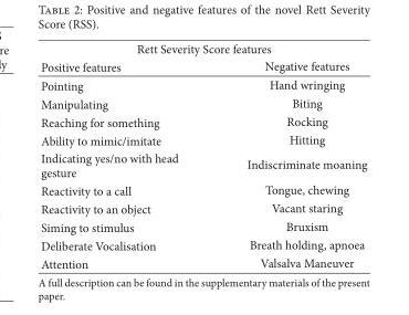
<table><thead><tr><td colspan="2">Rett Severity Score features</td></tr><tr><td>Positive features</td><td>Negative features</td></tr></thead><tbody><tr><td>Pointing</td><td>Hand wringing</td></tr><tr><td>Manipulating</td><td>Biting</td></tr><tr><td>Reaching for something</td><td>Rocking</td></tr><tr><td>Ability to mimic/imitate</td><td>Hitting</td></tr><tr><td>Indicating yes/no with head gesture</td><td>Indiscriminate moaning</td></tr><tr><td>Reactivity to a call</td><td>Tongue, chewing</td></tr><tr><td>Reactivity to an object</td><td>Vacant staring</td></tr><tr><td>Siming to stimulus</td><td>Bruxism</td></tr><tr><td>Deliberate Vocalisation</td><td>Breath holding, apnoea</td></tr><tr><td>Attention</td><td>Valsalva Maneuver</td></tr></tbody></table>